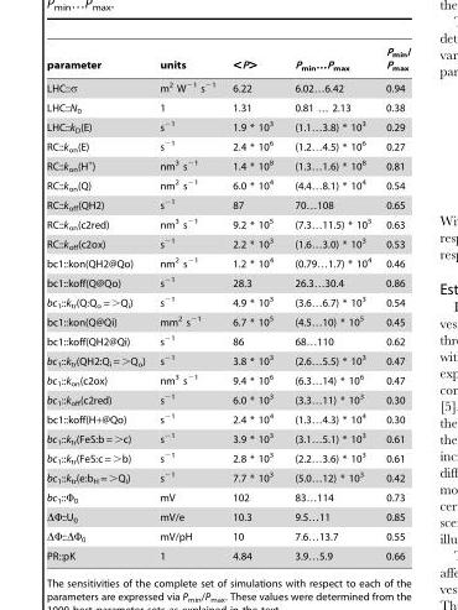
<table><thead><tr><td>parameter</td><td>units</td><td>&lt;P&gt;</td><td>P<sub>min</sub>…P<sub>max</sub></td><td>P<sub>min</sub>/ P<sub>max</sub></td></tr></thead><tbody><tr><td>LHC::σ</td><td>m<sup>2</sup> W<sup>−1</sup> s<sup>−1</sup></td><td>6.22</td><td>6.02…6.42</td><td>0.94</td></tr><tr><td>LHC::N<sub>0</sub></td><td>1</td><td>1.31</td><td>0.81 … 2.13</td><td>0.38</td></tr><tr><td>LHC::k<sub>D</sub>(E)</td><td>s<sup>−1</sup></td><td>1.9 * 10<sup>3</sup></td><td>(1.1…3.8) * 10<sup>3</sup></td><td>0.29</td></tr><tr><td>RC::k<sub>on</sub>(E)</td><td>s<sup>−1</sup></td><td>2.4 * 10<sup>6</sup></td><td>(1.2…4.5) * 10<sup>6</sup></td><td>0.27</td></tr><tr><td>RC::k<sub>on</sub>(H<sup>+</sup>)</td><td>nm<sup>3</sup> s<sup>−1</sup></td><td>1.4 * 10<sup>8</sup></td><td>(1.3…1.6) * 10<sup>8</sup></td><td>0.81</td></tr><tr><td>RC::k<sub>on</sub>(Q)</td><td>nm<sup>2</sup> s<sup>−1</sup></td><td>6.0 * 10<sup>4</sup></td><td>(4.4…8.1) * 10<sup>4</sup></td><td>0.54</td></tr><tr><td>RC::k<sub>off</sub>(QH2)</td><td>s<sup>−1</sup></td><td>87</td><td>70…108</td><td>0.65</td></tr><tr><td>RC::k<sub>on</sub>(c2red)</td><td>nm<sup>3</sup> s<sup>−1</sup></td><td>9.2 * 10<sup>5</sup></td><td>(7.3…11.5) * 10<sup>5</sup></td><td>0.63</td></tr><tr><td>RC::k<sub>off</sub>(c2ox)</td><td>s<sup>−1</sup></td><td>2.2 * 10<sup>3</sup></td><td>(1.6…3.0) * 10<sup>3</sup></td><td>0.53</td></tr><tr><td>bc1::kon(QH2@Qo)</td><td>nm<sup>2</sup> s<sup>−1</sup></td><td>1.2 * 10<sup>4</sup></td><td>(0.79…1.7) * 10<sup>4</sup></td><td>0.46</td></tr><tr><td>bc1::koff(Q@Qo)</td><td>s<sup>−1</sup></td><td>28.3</td><td>26.3…30.4</td><td>0.86</td></tr><tr><td>bc<sub>1</sub>::k<sub>tr</sub>(Q:Q<sub>o</sub> = &gt;Q<sub>i</sub>)</td><td>s<sup>−1</sup></td><td>4.9 * 10<sup>3</sup></td><td>(3.6…6.7) * 10<sup>3</sup></td><td>0.54</td></tr><tr><td>bc1::kon(Q@Qi)</td><td>mm<sup>2</sup> s<sup>−1</sup></td><td>6.7 * 10<sup>5</sup></td><td>(4.5…10) * 10<sup>5</sup></td><td>0.45</td></tr><tr><td>bc1::koff(QH2@Qi)</td><td>s<sup>−1</sup></td><td>86</td><td>68…110</td><td>0.62</td></tr><tr><td>bc<sub>1</sub>::k<sub>tr</sub>(QH2:Q<sub>i</sub> = &gt;Q<sub>o</sub>)</td><td>s<sup>−1</sup></td><td>3.8 * 10<sup>3</sup></td><td>(2.6…5.5) * 10<sup>3</sup></td><td>0.47</td></tr><tr><td>bc<sub>1</sub>::k<sub>on</sub>(c2ox)</td><td>nm<sup>3</sup> s<sup>−1</sup></td><td>9.4 * 10<sup>6</sup></td><td>(6.3…14) * 10<sup>6</sup></td><td>0.47</td></tr><tr><td>bc<sub>1</sub>::k<sub>off</sub>(c2red)</td><td>s<sup>−1</sup></td><td>6.0 * 10<sup>3</sup></td><td>(3.3…11) * 10<sup>3</sup></td><td>0.30</td></tr><tr><td>bc1::koff(H+@Qo)</td><td>s<sup>−1</sup></td><td>2.4 * 10<sup>4</sup></td><td>(1.3…4.3) * 10<sup>4</sup></td><td>0.30</td></tr><tr><td>bc<sub>1</sub>::k<sub>tr</sub>(FeS:b = &gt;c)</td><td>s<sup>−1</sup></td><td>3.9 * 10<sup>3</sup></td><td>(3.1…5.1) * 10<sup>3</sup></td><td>0.61</td></tr><tr><td>bc<sub>1</sub>::k<sub>tr</sub>(FeS:c = &gt;b)</td><td>s<sup>−1</sup></td><td>2.8 * 10<sup>3</sup></td><td>(2.2…3.6) * 10<sup>3</sup></td><td>0.61</td></tr><tr><td>bc<sub>1</sub>::k<sub>tr</sub>(e:b<sub>H</sub> = &gt;Q<sub>i</sub>)</td><td>s<sup>−1</sup></td><td>7.7 * 10<sup>3</sup></td><td>(5.0…12) * 10<sup>3</sup></td><td>0.42</td></tr><tr><td>bc<sub>1</sub>::Φ<sub>0</sub></td><td>mV</td><td>102</td><td>83…114</td><td>0.73</td></tr><tr><td>ΔΦ::U<sub>0</sub></td><td>mV/e</td><td>10.3</td><td>9.5…11</td><td>0.85</td></tr><tr><td>ΔΦ::ΔΦ<sub>0</sub></td><td>mV/pH</td><td>10</td><td>7.6…13.7</td><td>0.55</td></tr><tr><td>PR::pK</td><td>1</td><td>4.84</td><td>3.9…5.9</td><td>0.66</td></tr></tbody></table>